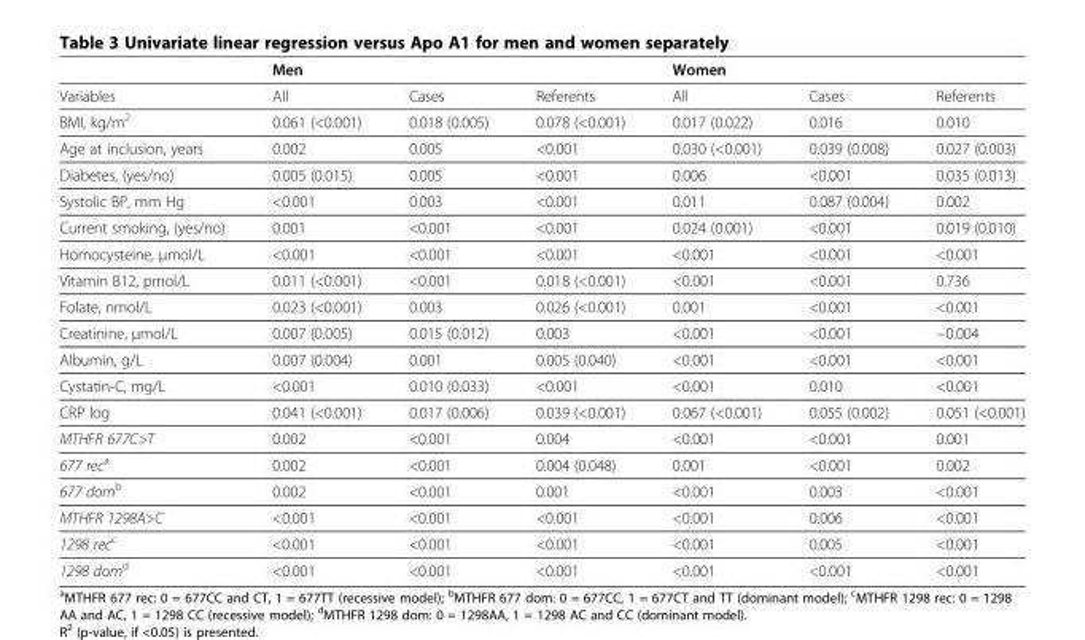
<table><thead><tr><td></td><td>Men</td><td></td><td></td><td>Women</td><td></td><td></td></tr></thead><tbody><tr><td>Variables</td><td>All</td><td>Cases</td><td>Referents</td><td>All</td><td>Cases</td><td>Referents</td></tr><tr><td>BMI, kg/m<sup>2</sup></td><td>0.061 (&lt;0.001)</td><td>0.018 (0.005)</td><td>0.078 (&lt;0.001)</td><td>0.017 (0.022)</td><td>0.016</td><td>0.010</td></tr><tr><td>Age at inclusion, years</td><td>0.002</td><td>0.005</td><td>&lt;0.001</td><td>0.030 (&lt;0.001)</td><td>0.039 (0.008)</td><td>0.027 (0.003)</td></tr><tr><td>Diabetes, (yes/no)</td><td>0.005 (0.015)</td><td>0.005</td><td>&lt;0.001</td><td>0.006</td><td>&lt;0.001</td><td>0.035 (0.013)</td></tr><tr><td>Systolic BP, mm Hg</td><td>&lt;0.001</td><td>0.003</td><td>&lt;0.001</td><td>0.011</td><td>0.087 (0.004)</td><td>0.002</td></tr><tr><td>Current smoking, (yes/no)</td><td>0.001</td><td>&lt;0.001</td><td>&lt;0.001</td><td>0.024 (0.001)</td><td>&lt;0.001</td><td>0.019 (0.010)</td></tr><tr><td>Homocysteine, μmol/L</td><td>&lt;0.001</td><td>&lt;0.001</td><td>&lt;0.001</td><td>&lt;0.001</td><td>&lt;0.001</td><td>&lt;0.001</td></tr><tr><td>Vitamin B12, pmol/L</td><td>0.011 (&lt;0.001)</td><td>&lt;0.001</td><td>0.018 (&lt;0.001)</td><td>&lt;0.001</td><td>&lt;0.001</td><td>0.736</td></tr><tr><td>Folate, nmol/L</td><td>0.023 (&lt;0.001)</td><td>0.003</td><td>0.026 (&lt;0.001)</td><td>0.001</td><td>&lt;0.001</td><td>&lt;0.001</td></tr><tr><td>Creatinine, μmol/L</td><td>0.007 (0.005)</td><td>0.015 (0.012)</td><td>0.003</td><td>&lt;0.001</td><td>&lt;0.001</td><td>−0.004</td></tr><tr><td>Albumin, g/L</td><td>0.007 (0.004)</td><td>0.001</td><td>0.005 (0.040)</td><td>&lt;0.001</td><td>&lt;0.001</td><td>&lt;0.001</td></tr><tr><td>Cystatin-C, mg/L</td><td>&lt;0.001</td><td>0.010 (0.033)</td><td>&lt;0.001</td><td>&lt;0.001</td><td>0.010</td><td>&lt;0.001</td></tr><tr><td>CRP log</td><td>0.041 (&lt;0.001)</td><td>0.017 (0.006)</td><td>0.039 (&lt;0.001)</td><td>0.067 (&lt;0.001)</td><td>0.055 (0.002)</td><td>0.051 (&lt;0.001)</td></tr><tr><td>MTHFR 677C&gt;T</td><td>0.002</td><td>&lt;0.001</td><td>0.004</td><td>&lt;0.001</td><td>&lt;0.001</td><td>0.001</td></tr><tr><td>677 rec<sup>a</sup></td><td>0.002</td><td>&lt;0.001</td><td>0.004 (0.048)</td><td>0.001</td><td>&lt;0.001</td><td>0.002</td></tr><tr><td>677 dom<sup>b</sup></td><td>0.002</td><td>&lt;0.001</td><td>0.001</td><td>&lt;0.001</td><td>0.003</td><td>&lt;0.001</td></tr><tr><td>MTHFR 1298A&gt;C</td><td>&lt;0.001</td><td>&lt;0.001</td><td>&lt;0.001</td><td>&lt;0.001</td><td>0.006</td><td>&lt;0.001</td></tr><tr><td>1298 rec<sup>c</sup></td><td>&lt;0.001</td><td>&lt;0.001</td><td>&lt;0.001</td><td>&lt;0.001</td><td>0.005</td><td>&lt;0.001</td></tr><tr><td>1298 dom<sup>d</sup></td><td>&lt;0.001</td><td>&lt;0.001</td><td>&lt;0.001</td><td>&lt;0.001</td><td>&lt;0.001</td><td>&lt;0.001</td></tr></tbody></table>